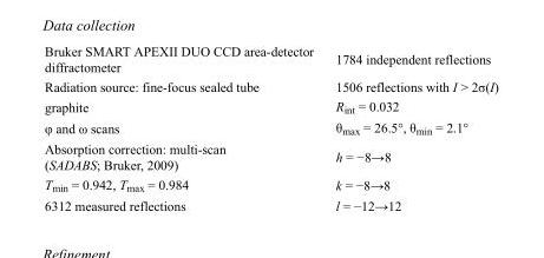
<table><tbody><tr><td>Bruker SMART APEXII DUO CCD area-detector diffractometer</td><td>1784 independent reflections</td></tr><tr><td>Radiation source: fine-focus sealed tube</td><td>1506 reflections with I &gt; 2σ(I)</td></tr><tr><td>graphite</td><td>R<sub>int</sub> = 0.032</td></tr><tr><td>φ and ω scans</td><td>θ<sub>max</sub> = 26.5°, θ<sub>min</sub> = 2.1°</td></tr><tr><td>Absorption correction: multi-scan (SADABS; Bruker, 2009)</td><td>h = −8→8</td></tr><tr><td>T<sub>min</sub> = 0.942, T<sub>max</sub> = 0.984</td><td>k = −8→8</td></tr><tr><td>6312 measured reflections</td><td>l = −12→12</td></tr></tbody></table>